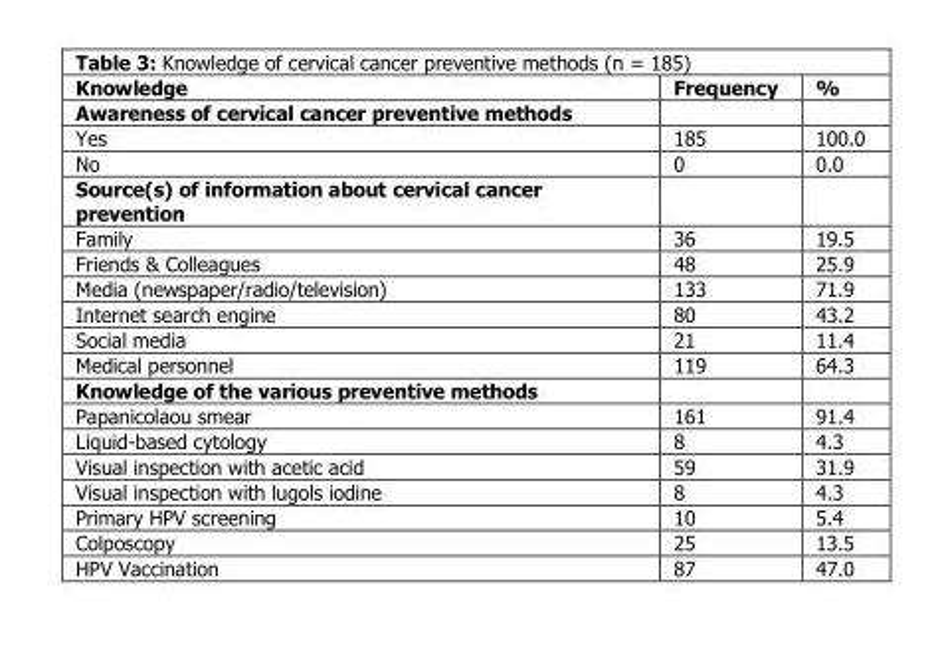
<table><thead><tr><td>Knowledge</td><td>Frequency</td><td>%</td></tr></thead><tbody><tr><td colspan="3">Awareness of cervical cancer preventive methods</td></tr><tr><td>Yes</td><td>185</td><td>100.0</td></tr><tr><td>No</td><td>0</td><td>0.0</td></tr><tr><td colspan="3">Source(s) of information about cervical cancer prevention</td></tr><tr><td>Family</td><td>36</td><td>19.5</td></tr><tr><td>Friends &amp; Colleagues</td><td>48</td><td>25.9</td></tr><tr><td>Media (newspaper/radio/television)</td><td>133</td><td>71.9</td></tr><tr><td>Internet search engine</td><td>80</td><td>43.2</td></tr><tr><td>Social media</td><td>21</td><td>11.4</td></tr><tr><td>Medical personnel</td><td>119</td><td>64.3</td></tr><tr><td colspan="3">Knowledge of the various preventive methods</td></tr><tr><td>Papanicolaou smear</td><td>161</td><td>91.4</td></tr><tr><td>Liquid-based cytology</td><td>8</td><td>4.3</td></tr><tr><td>Visual inspection with acetic acid</td><td>59</td><td>31.9</td></tr><tr><td>Visual inspection with lugols iodine</td><td>8</td><td>4.3</td></tr><tr><td>Primary HPV screening</td><td>10</td><td>5.4</td></tr><tr><td>Colposcopy</td><td>25</td><td>13.5</td></tr><tr><td>HPV Vaccination</td><td>87</td><td>47.0</td></tr></tbody></table>